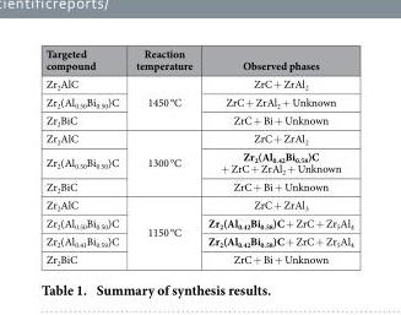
<table><thead><tr><td>Targeted compound</td><td>Reaction temperature</td><td>Observed phases</td></tr></thead><tbody><tr><td>Zr<sub>2</sub>AlC</td><td rowspan="3">1450 °C</td><td>ZrC + ZrAl<sub>2</sub></td></tr><tr><td>Zr<sub>2</sub>(Al<sub>0.50</sub>Bi<sub>0.50</sub>)C</td><td>ZrC + ZrAl<sub>2</sub> + Unknown</td></tr><tr><td>Zr<sub>2</sub>BiC</td><td>ZrC + Bi + Unknown</td></tr><tr><td>Zr<sub>2</sub>AlC</td><td rowspan="3">1300 °C</td><td>ZrC + ZrAl<sub>2</sub></td></tr><tr><td>Zr<sub>2</sub>(Al<sub>0.50</sub>Bi<sub>0.50</sub>)C</td><td>Zr<sub>2</sub>(Al<sub>0.42</sub>Bi<sub>0.58</sub>)C + ZrC + ZrAl<sub>2</sub> + Unknown</td></tr><tr><td>Zr<sub>2</sub>BiC</td><td>ZrC + Bi + Unknown</td></tr><tr><td>Zr<sub>2</sub>AlC</td><td rowspan="4">1150 °C</td><td>ZrC + ZrAl<sub>3</sub></td></tr><tr><td>Zr<sub>2</sub>(Al<sub>0.50</sub>Bi<sub>0.50</sub>)C</td><td>Zr<sub>2</sub>(Al<sub>0.42</sub>Bi<sub>0.58</sub>)C + ZrC + Zr<sub>5</sub>Al<sub>4</sub></td></tr><tr><td>Zr<sub>2</sub>(Al<sub>0.41</sub>Bi<sub>0.59</sub>)C</td><td>Zr<sub>2</sub>(Al<sub>0.42</sub>Bi<sub>0.58</sub>)C + ZrC + Zr<sub>5</sub>Al<sub>4</sub></td></tr><tr><td>Zr<sub>2</sub>BiC</td><td>ZrC + Bi + Unknown</td></tr></tbody></table>